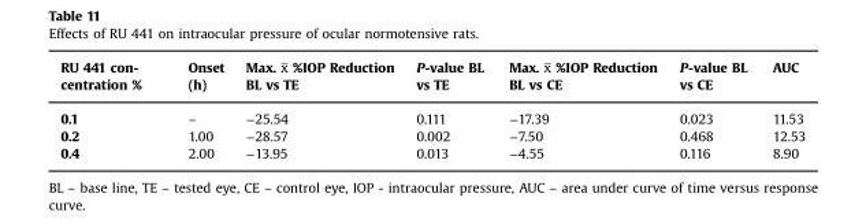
<table><thead><tr><td>RU 441 con- centration %</td><td>Onset (h)</td><td>Max. x̅ %IOP Reduction BL vs TE</td><td>P-value BL vs TE</td><td>Max. x̅ %IOP Reduction BL vs CE</td><td>P-value BL vs CE</td><td>AUC</td></tr></thead><tbody><tr><td>0.1</td><td>–</td><td>−25.54</td><td>0.111</td><td>−17.39</td><td>0.023</td><td>11.53</td></tr><tr><td>0.2</td><td>1.00</td><td>−28.57</td><td>0.002</td><td>−7.50</td><td>0.468</td><td>12.53</td></tr><tr><td>0.4</td><td>2.00</td><td>−13.95</td><td>0.013</td><td>−4.55</td><td>0.116</td><td>8.90</td></tr></tbody></table>